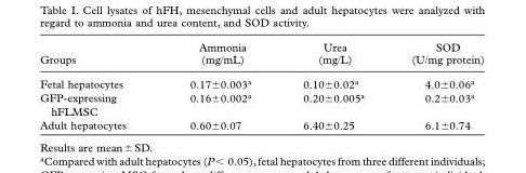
<table><thead><tr><td>Groups</td><td>Ammonia (mg/mL)</td><td>Urea (mg/L)</td><td>SOD (U/mg protein)</td></tr></thead><tbody><tr><td>Fetal hepatocytes</td><td>0.17 ± 0.003 <sup>a</sup></td><td>0.10 ± 0.02 <sup>a</sup></td><td>4.0 ± 0.06 <sup>a</sup></td></tr><tr><td>GFP-expressing hFLMSC</td><td>0.16 ± 0.002 <sup>a</sup></td><td>0.20 ± 0.005 <sup>a</sup></td><td>0.2 ± 0.03 <sup>a</sup></td></tr><tr><td>Adult hepatocytes</td><td>0.60 ± 0.07</td><td>6.40 ± 0.25</td><td>6.1 ± 0.74</td></tr></tbody></table>